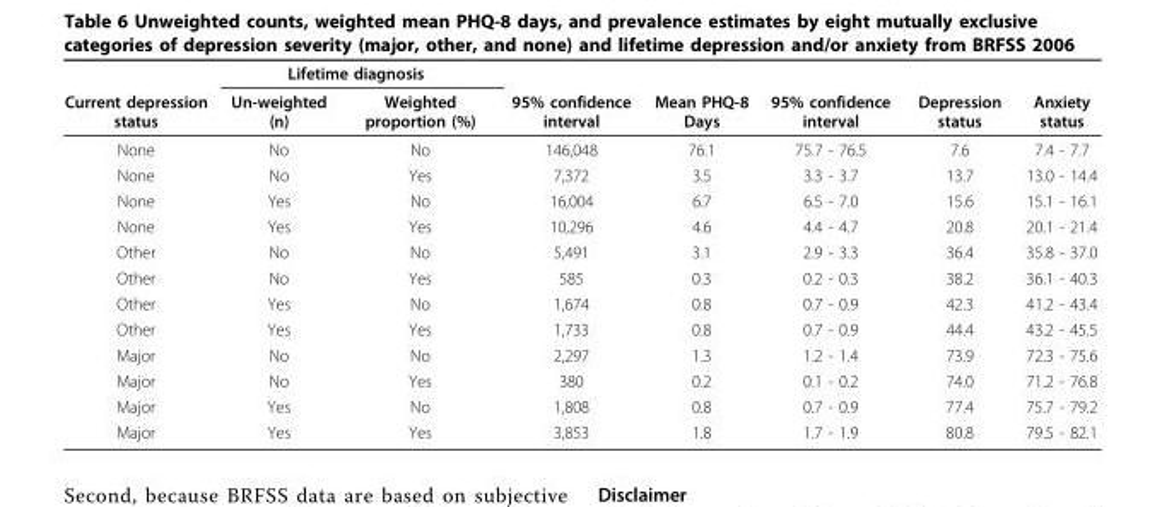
<table><thead><tr><td rowspan="2">Current depression status</td><td colspan="2">Lifetime diagnosis</td><td rowspan="2">95% confidence interval</td><td rowspan="2">Mean PHQ-8 Days</td><td rowspan="2">95% confidence interval</td><td rowspan="2">Depression status</td><td rowspan="2">Anxiety status</td></tr><tr><td>Un-weighted (n)</td><td>Weighted proportion (%)</td></tr></thead><tbody><tr><td>None</td><td>No</td><td>No</td><td>146,048</td><td>76.1</td><td>75.7 - 76.5</td><td>7.6</td><td>7.4 - 7.7</td></tr><tr><td>None</td><td>No</td><td>Yes</td><td>7,372</td><td>3.5</td><td>3.3 - 3.7</td><td>13.7</td><td>13.0 - 14.4</td></tr><tr><td>None</td><td>Yes</td><td>No</td><td>16,004</td><td>6.7</td><td>6.5 - 7.0</td><td>15.6</td><td>15.1 - 16.1</td></tr><tr><td>None</td><td>Yes</td><td>Yes</td><td>10,296</td><td>4.6</td><td>4.4 - 4.7</td><td>20.8</td><td>20.1 - 21.4</td></tr><tr><td>Other</td><td>No</td><td>No</td><td>5,491</td><td>3.1</td><td>2.9 - 3.3</td><td>36.4</td><td>35.8 - 37.0</td></tr><tr><td>Other</td><td>No</td><td>Yes</td><td>585</td><td>0.3</td><td>0.2 - 0.3</td><td>38.2</td><td>36.1 - 40.3</td></tr><tr><td>Other</td><td>Yes</td><td>No</td><td>1,674</td><td>0.8</td><td>0.7 - 0.9</td><td>42.3</td><td>41.2 - 43.4</td></tr><tr><td>Other</td><td>Yes</td><td>Yes</td><td>1,733</td><td>0.8</td><td>0.7 - 0.9</td><td>44.4</td><td>43.2 - 45.5</td></tr><tr><td>Major</td><td>No</td><td>No</td><td>2,297</td><td>1.3</td><td>1.2 - 1.4</td><td>73.9</td><td>72.3 - 75.6</td></tr><tr><td>Major</td><td>No</td><td>Yes</td><td>380</td><td>0.2</td><td>0.1 - 0.2</td><td>74.0</td><td>71.2 - 76.8</td></tr><tr><td>Major</td><td>Yes</td><td>No</td><td>1,808</td><td>0.8</td><td>0.7 - 0.9</td><td>77.4</td><td>75.7 - 79.2</td></tr><tr><td>Major</td><td>Yes</td><td>Yes</td><td>3,853</td><td>1.8</td><td>1.7 - 1.9</td><td>80.8</td><td>79.5 - 82.1</td></tr></tbody></table>